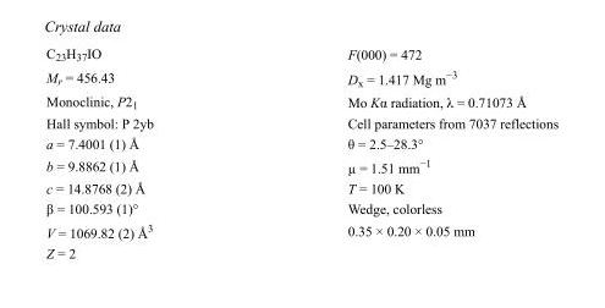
<table><tbody><tr><td>C<sub>23</sub>H<sub>37</sub>IO</td><td>F(000) = 472</td></tr><tr><td>M<sub>r</sub> = 456.43</td><td>D<sub>x</sub> = 1.417 Mg m<sup>−3</sup></td></tr><tr><td>Monoclinic, P2<sub>1</sub></td><td>Mo Kα radiation, λ = 0.71073 Å</td></tr><tr><td>Hall symbol: P 2yb</td><td>Cell parameters from 7037 reflections</td></tr><tr><td>a = 7.4001 (1) Å</td><td>θ = 2.5–28.3°</td></tr><tr><td>b = 9.8862 (1) Å</td><td>µ = 1.51 mm<sup>−1</sup></td></tr><tr><td>c = 14.8768 (2) Å</td><td>T = 100 K</td></tr><tr><td>β = 100.593 (1)°</td><td>Wedge, colorless</td></tr><tr><td>V = 1069.82 (2) Å<sup>3</sup></td><td>0.35 × 0.20 × 0.05 mm</td></tr><tr><td>Z = 2</td><td></td></tr></tbody></table>